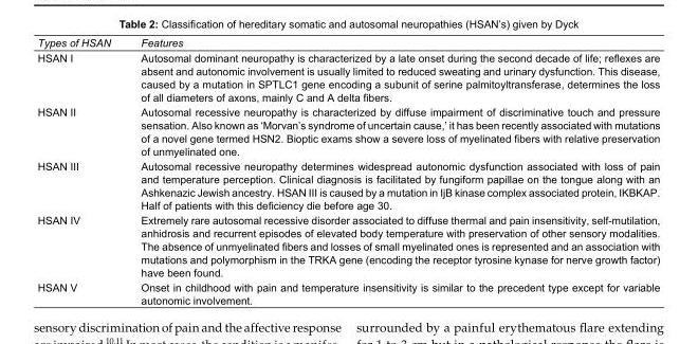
<table><tbody><tr><td>Types of HSAN</td><td>Features</td></tr><tr><td>HSAN I</td><td>Autosomal dominant neuropathy is characterized by a late onset during the second decade of life; reflexes are absent and autonomic involvement is usually limited to reduced sweating and urinary dysfunction. This disease, caused by a mutation in SPTLC1 gene encoding a subunit of serine palmitoyltransferase, determines the loss of all diameters of axons, mainly C and A delta fibers.</td></tr><tr><td>HSAN II</td><td>Autosomal recessive neuropathy is characterized by diffuse impairment of discriminative touch and pressure sensation. Also known as ‘Morvan’s syndrome of uncertain cause,’ it has been recently associated with mutations of a novel gene termed HSN2. Bioptic exams show a severe loss of myelinated fibers with relative preservation of unmyelinated one.</td></tr><tr><td>HSAN III</td><td>Autosomal recessive neuropathy determines widespread autonomic dysfunction associated with loss of pain and temperature perception. Clinical diagnosis is facilitated by fungiform papillae on the tongue along with an Ashkenazic Jewish ancestry. HSAN III is caused by a mutation in IjB kinase complex associated protein, IKBKAP. Half of patients with this deficiency die before age 30.</td></tr><tr><td>HSAN IV</td><td>Extremely rare autosomal recessive disorder associated to diffuse thermal and pain insensitivity, self-mutilation, anhidrosis and recurrent episodes of elevated body temperature with preservation of other sensory modalities. The absence of unmyelinated fibers and losses of small myelinated ones is represented and an association with mutations and polymorphism in the TRKA gene (encoding the receptor tyrosine kynase for nerve growth factor) have been found.</td></tr><tr><td>HSAN V</td><td>Onset in childhood with pain and temperature insensitivity is similar to the precedent type except for variable autonomic involvement.</td></tr></tbody></table>